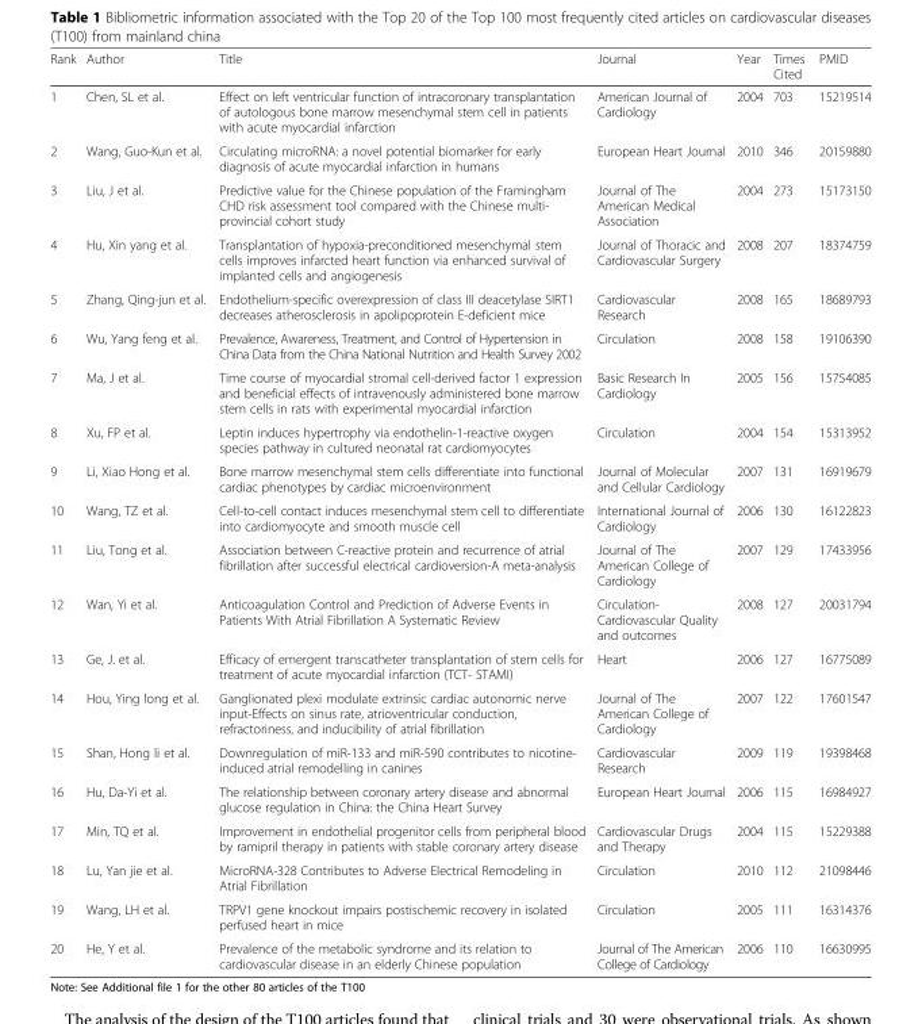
<table><thead><tr><td>Rank</td><td>Author</td><td>Title</td><td>Journal</td><td>Year</td><td>Times Cited</td><td>PMID</td></tr></thead><tbody><tr><td>1</td><td>Chen, SL et al.</td><td>Effect on left ventricular function of intracoronary transplantation of autologous bone marrow mesenchymal stem cell in patients with acute myocardial infarction</td><td>American Journal of Cardiology</td><td>2004</td><td>703</td><td>15219514</td></tr><tr><td>2</td><td>Wang, Guo-Kun et al.</td><td>Circulating microRNA: a novel potential biomarker for early diagnosis of acute myocardial infarction in humans</td><td>European Heart Journal</td><td>2010</td><td>346</td><td>20159880</td></tr><tr><td>3</td><td>Liu, J et al.</td><td>Predictive value for the Chinese population of the Framingham CHD risk assessment tool compared with the Chinese multi- provincial cohort study</td><td>Journal of The American Medical Association</td><td>2004</td><td>273</td><td>15173150</td></tr><tr><td>4</td><td>Hu, Xin yang et al.</td><td>Transplantation of hypoxia-preconditioned mesenchymal stem cells improves infarcted heart function via enhanced survival of implanted cells and angiogenesis</td><td>Journal of Thoracic and Cardiovascular Surgery</td><td>2008</td><td>207</td><td>18374759</td></tr><tr><td>5</td><td>Zhang, Qing-jun et al.</td><td>Endothelium-specific overexpression of class III deacetylase SIRT1 decreases atherosclerosis in apolipoprotein E-deficient mice</td><td>Cardiovascular Research</td><td>2008</td><td>165</td><td>18689793</td></tr><tr><td>6</td><td>Wu, Yang feng et al.</td><td>Prevalence, Awareness, Treatment, and Control of Hypertension in China Data from the China National Nutrition and Health Survey 2002</td><td>Circulation</td><td>2008</td><td>158</td><td>19106390</td></tr><tr><td>7</td><td>Ma, J et al.</td><td>Time course of myocardial stromal cell-derived factor 1 expression and beneficial effects of intravenously administered bone marrow stem cells in rats with experimental myocardial infarction</td><td>Basic Research In Cardiology</td><td>2005</td><td>156</td><td>15754085</td></tr><tr><td>8</td><td>Xu, FP et al.</td><td>Leptin induces hypertrophy via endothelin-1-reactive oxygen species pathway in cultured neonatal rat cardiomyocytes</td><td>Circulation</td><td>2004</td><td>154</td><td>15313952</td></tr><tr><td>9</td><td>Li, Xiao Hong et al.</td><td>Bone marrow mesenchymal stem cells differentiate into functional cardiac phenotypes by cardiac microenvironment</td><td>Journal of Molecular and Cellular Cardiology</td><td>2007</td><td>131</td><td>16919679</td></tr><tr><td>10</td><td>Wang, TZ et al.</td><td>Cell-to-cell contact induces mesenchymal stem cell to differentiate into cardiomyocyte and smooth muscle cell</td><td>International Journal of Cardiology</td><td>2006</td><td>130</td><td>16122823</td></tr><tr><td>11</td><td>Liu, Tong et al.</td><td>Association between C-reactive protein and recurrence of atrial fibrillation after successful electrical cardioversion-A meta-analysis</td><td>Journal of The American College of Cardiology</td><td>2007</td><td>129</td><td>17433956</td></tr><tr><td>12</td><td>Wan, Yi et al.</td><td>Anticoagulation Control and Prediction of Adverse Events in Patients With Atrial Fibrillation A Systematic Review</td><td>Circulation- Cardiovascular Quality and outcomes</td><td>2008</td><td>127</td><td>20031794</td></tr><tr><td>13</td><td>Ge, J. et al.</td><td>Efficacy of emergent transcatheter transplantation of stem cells for treatment of acute myocardial infarction (TCT- STAMI)</td><td>Heart</td><td>2006</td><td>127</td><td>16775089</td></tr><tr><td>14</td><td>Hou, Ying long et al.</td><td>Ganglionated plexi modulate extrinsic cardiac autonomic nerve input-Effects on sinus rate, atrioventricular conduction, refractoriness, and inducibility of atrial fibrillation</td><td>Journal of The American College of Cardiology</td><td>2007</td><td>122</td><td>17601547</td></tr><tr><td>15</td><td>Shan, Hong li et al.</td><td>Downregulation of miR-133 and miR-590 contributes to nicotine- induced atrial remodelling in canines</td><td>Cardiovascular Research</td><td>2009</td><td>119</td><td>19398468</td></tr><tr><td>16</td><td>Hu, Da-Yi et al.</td><td>The relationship between coronary artery disease and abnormal glucose regulation in China: the China Heart Survey</td><td>European Heart Journal</td><td>2006</td><td>115</td><td>16984927</td></tr><tr><td>17</td><td>Min, TQ et al.</td><td>Improvement in endothelial progenitor cells from peripheral blood by ramipril therapy in patients with stable coronary artery disease</td><td>Cardiovascular Drugs and Therapy</td><td>2004</td><td>115</td><td>15229388</td></tr><tr><td>18</td><td>Lu, Yan jie et al.</td><td>MicroRNA-328 Contributes to Adverse Electrical Remodeling in Atrial Fibrillation</td><td>Circulation</td><td>2010</td><td>112</td><td>21098446</td></tr><tr><td>19</td><td>Wang, LH et al.</td><td>TRPV1 gene knockout impairs postischemic recovery in isolated perfused heart in mice</td><td>Circulation</td><td>2005</td><td>111</td><td>16314376</td></tr><tr><td>20</td><td>He, Y et al.</td><td>Prevalence of the metabolic syndrome and its relation to cardiovascular disease in an elderly Chinese population</td><td>Journal of The American College of Cardiology</td><td>2006</td><td>110</td><td>16630995</td></tr></tbody></table>